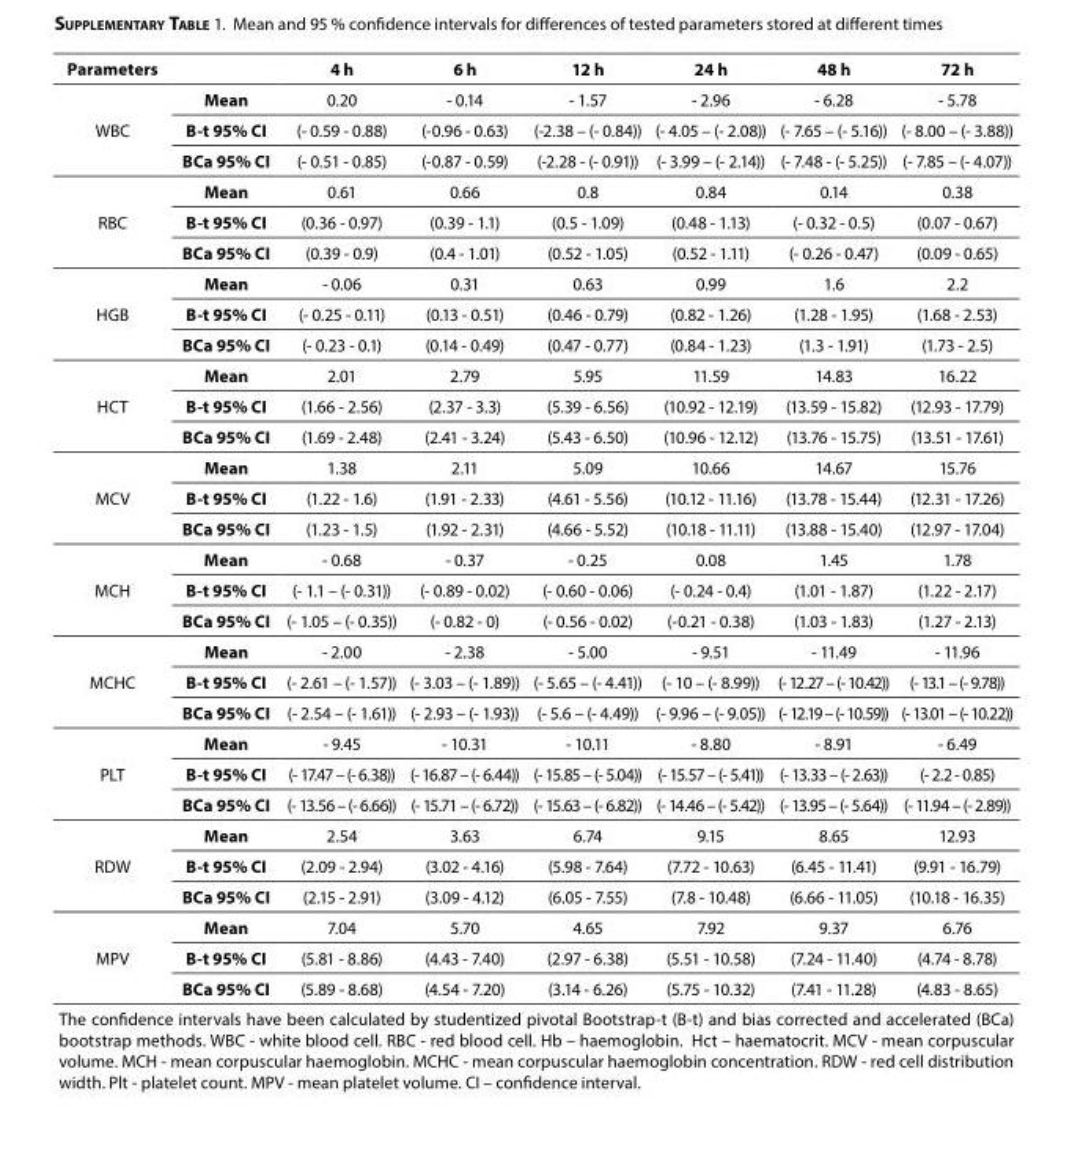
<table><thead><tr><td>Parameters</td><td></td><td>4 h</td><td>6 h</td><td>12 h</td><td>24 h</td><td>48 h</td><td>72 h</td></tr></thead><tbody><tr><td rowspan="3">WBC</td><td>Mean</td><td>0.20</td><td>- 0.14</td><td>- 1.57</td><td>- 2.96</td><td>- 6.28</td><td>- 5.78</td></tr><tr><td>B-t 95% CI</td><td>(- 0.59 - 0.88)</td><td>(-0.96 - 0.63)</td><td>(-2.38 – (- 0.84))</td><td>(- 4.05 – (- 2.08))</td><td>(- 7.65 – (- 5.16))</td><td>(- 8.00 – (- 3.88))</td></tr><tr><td>BCa 95% CI</td><td>(- 0.51 - 0.85)</td><td>(-0.87 - 0.59)</td><td>(-2.28 - (- 0.91))</td><td>(- 3.99 – (- 2.14))</td><td>(- 7.48 - (- 5.25))</td><td>(- 7.85 – (- 4.07))</td></tr><tr><td rowspan="3">RBC</td><td>Mean</td><td>0.61</td><td>0.66</td><td>0.8</td><td>0.84</td><td>0.14</td><td>0.38</td></tr><tr><td>B-t 95% CI</td><td>(0.36 - 0.97)</td><td>(0.39 - 1.1)</td><td>(0.5 - 1.09)</td><td>(0.48 - 1.13)</td><td>(- 0.32 - 0.5)</td><td>(0.07 - 0.67)</td></tr><tr><td>BCa 95% CI</td><td>(0.39 - 0.9)</td><td>(0.4 - 1.01)</td><td>(0.52 - 1.05)</td><td>(0.52 - 1.11)</td><td>(- 0.26 - 0.47)</td><td>(0.09 - 0.65)</td></tr><tr><td rowspan="3">HGB</td><td>Mean</td><td>- 0.06</td><td>0.31</td><td>0.63</td><td>0.99</td><td>1.6</td><td>2.2</td></tr><tr><td>B-t 95% CI</td><td>(- 0.25 - 0.11)</td><td>(0.13 - 0.51)</td><td>(0.46 - 0.79)</td><td>(0.82 - 1.26)</td><td>(1.28 - 1.95)</td><td>(1.68 - 2.53)</td></tr><tr><td>BCa 95% CI</td><td>(- 0.23 - 0.1)</td><td>(0.14 - 0.49)</td><td>(0.47 - 0.77)</td><td>(0.84 - 1.23)</td><td>(1.3 - 1.91)</td><td>(1.73 - 2.5)</td></tr><tr><td rowspan="3">HCT</td><td>Mean</td><td>2.01</td><td>2.79</td><td>5.95</td><td>11.59</td><td>14.83</td><td>16.22</td></tr><tr><td>B-t 95% CI</td><td>(1.66 - 2.56)</td><td>(2.37 - 3.3)</td><td>(5.39 - 6.56)</td><td>(10.92 - 12.19)</td><td>(13.59 - 15.82)</td><td>(12.93 - 17.79)</td></tr><tr><td>BCa 95% CI</td><td>(1.69 - 2.48)</td><td>(2.41 - 3.24)</td><td>(5.43 - 6.50)</td><td>(10.96 - 12.12)</td><td>(13.76 - 15.75)</td><td>(13.51 - 17.61)</td></tr><tr><td rowspan="3">MCV</td><td>Mean</td><td>1.38</td><td>2.11</td><td>5.09</td><td>10.66</td><td>14.67</td><td>15.76</td></tr><tr><td>B-t 95% CI</td><td>(1.22 - 1.6)</td><td>(1.91 - 2.33)</td><td>(4.61 - 5.56)</td><td>(10.12 - 11.16)</td><td>(13.78 - 15.44)</td><td>(12.31 - 17.26)</td></tr><tr><td>BCa 95% CI</td><td>(1.23 - 1.5)</td><td>(1.92 - 2.31)</td><td>(4.66 - 5.52)</td><td>(10.18 - 11.11)</td><td>(13.88 - 15.40)</td><td>(12.97 - 17.04)</td></tr><tr><td rowspan="3">MCH</td><td>Mean</td><td>- 0.68</td><td>- 0.37</td><td>- 0.25</td><td>0.08</td><td>1.45</td><td>1.78</td></tr><tr><td>B-t 95% CI</td><td>(- 1.1 – (- 0.31))</td><td>(- 0.89 - 0.02)</td><td>(- 0.60 - 0.06)</td><td>(- 0.24 - 0.4)</td><td>(1.01 - 1.87)</td><td>(1.22 - 2.17)</td></tr><tr><td>BCa 95% CI</td><td>(- 1.05 – (- 0.35))</td><td>(- 0.82 - 0)</td><td>(- 0.56 - 0.02)</td><td>(-0.21 - 0.38)</td><td>(1.03 - 1.83)</td><td>(1.27 - 2.13)</td></tr><tr><td rowspan="3">MCHC</td><td>Mean</td><td>- 2.00</td><td>- 2.38</td><td>- 5.00</td><td>- 9.51</td><td>- 11.49</td><td>- 11.96</td></tr><tr><td>B-t 95% CI</td><td>(- 2.61 – (- 1.57))</td><td>(- 3.03 – (- 1.89))</td><td>(- 5.65 – (- 4.41))</td><td>(- 10 – (- 8.99))</td><td>(- 12.27 – (- 10.42))</td><td>(- 13.1 – (- 9.78))</td></tr><tr><td>BCa 95% CI</td><td>(- 2.54 – (- 1.61))</td><td>(- 2.93 – (- 1.93))</td><td>(- 5.6 – (- 4.49))</td><td>(- 9.96 – (- 9.05))</td><td>(- 12.19 – (- 10.59))</td><td>(- 13.01 – (- 10.22))</td></tr><tr><td rowspan="3">PLT</td><td>Mean</td><td>- 9.45</td><td>- 10.31</td><td>- 10.11</td><td>- 8.80</td><td>- 8.91</td><td>- 6.49</td></tr><tr><td>B-t 95% CI</td><td>(- 17.47 – (- 6.38))</td><td>(- 16.87 – (- 6.44))</td><td>(- 15.85 – (- 5.04))</td><td>(- 15.57 – (- 5.41))</td><td>(- 13.33 – (- 2.63))</td><td>(- 2.2 - 0.85)</td></tr><tr><td>BCa 95% CI</td><td>(- 13.56 – (- 6.66))</td><td>(- 15.71 – (- 6.72))</td><td>(- 15.63 – (- 6.82))</td><td>(- 14.46 – (- 5.42))</td><td>(- 13.95 – (- 5.64))</td><td>(- 11.94 – (- 2.89))</td></tr><tr><td rowspan="3">RDW</td><td>Mean</td><td>2.54</td><td>3.63</td><td>6.74</td><td>9.15</td><td>8.65</td><td>12.93</td></tr><tr><td>B-t 95% CI</td><td>(2.09 - 2.94)</td><td>(3.02 - 4.16)</td><td>(5.98 - 7.64)</td><td>(7.72 - 10.63)</td><td>(6.45 - 11.41)</td><td>(9.91 - 16.79)</td></tr><tr><td>BCa 95% CI</td><td>(2.15 - 2.91)</td><td>(3.09 - 4.12)</td><td>(6.05 - 7.55)</td><td>(7.8 - 10.48)</td><td>(6.66 - 11.05)</td><td>(10.18 - 16.35)</td></tr><tr><td rowspan="3">MPV</td><td>Mean</td><td>7.04</td><td>5.70</td><td>4.65</td><td>7.92</td><td>9.37</td><td>6.76</td></tr><tr><td>B-t 95% CI</td><td>(5.81 - 8.86)</td><td>(4.43 - 7.40)</td><td>(2.97 - 6.38)</td><td>(5.51 - 10.58)</td><td>(7.24 - 11.40)</td><td>(4.74 - 8.78)</td></tr><tr><td>BCa 95% CI</td><td>(5.89 - 8.68)</td><td>(4.54 - 7.20)</td><td>(3.14 - 6.26)</td><td>(5.75 - 10.32)</td><td>(7.41 - 11.28)</td><td>(4.83 - 8.65)</td></tr><tr><td colspan="8">The confidence intervals have been calculated by studentized pivotal Bootstrap-t (B-t) and bias corrected and accelerated (BCa) bootstrap methods. WBC - white blood cell. RBC - red blood cell. Hb – haemoglobin. Hct – haematocrit. MCV - mean corpuscular volume. MCH - mean corpuscular haemoglobin. MCHC - mean corpuscular haemoglobin concentration. RDW - red cell distribution width. Plt - platelet count. MPV - mean platelet volume. CI – confidence interval.</td></tr></tbody></table>